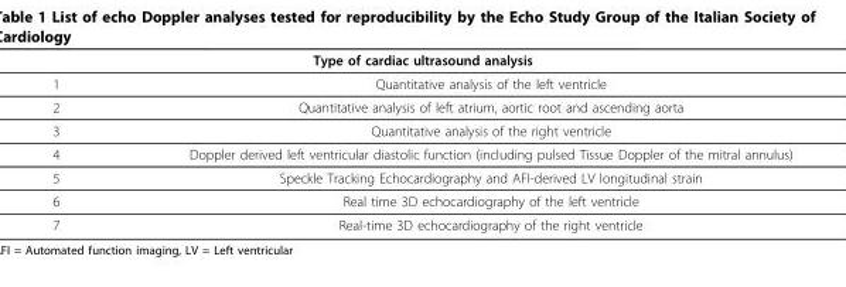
<table><thead><tr><td colspan="2">Type of cardiac ultrasound analysis</td></tr><tr><td>1</td><td>Quantitative analysis of the left ventricle</td></tr></thead><tbody><tr><td>2</td><td>Quantitative analysis of left atrium, aortic root and ascending aorta</td></tr><tr><td>3</td><td>Quantitative analysis of the right ventricle</td></tr><tr><td>4</td><td>Doppler derived left ventricular diastolic function (including pulsed Tissue Doppler of the mitral annulus)</td></tr><tr><td>5</td><td>Speckle Tracking Echocardiography and AFI-derived LV longitudinal strain</td></tr><tr><td>6</td><td>Real time 3D echocardiography of the left ventricle</td></tr><tr><td>7</td><td>Real-time 3D echocardiography of the right ventricle</td></tr></tbody></table>